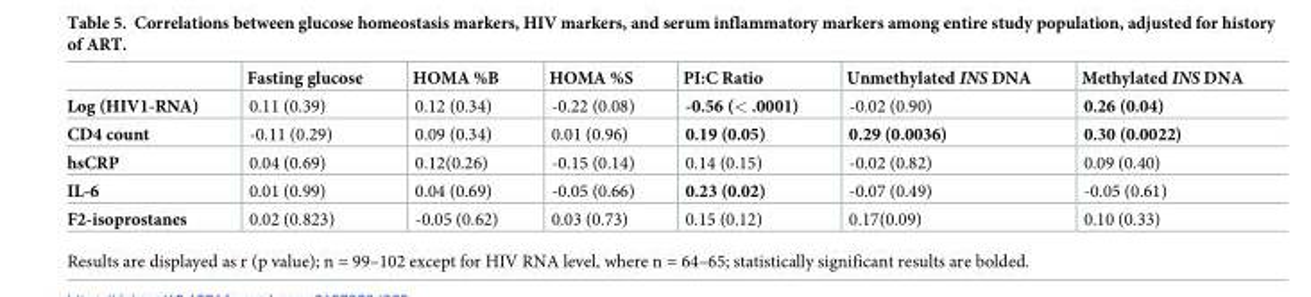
<table><thead><tr><td></td><td>Fasting glucose</td><td>HOMA %B</td><td>HOMA %S</td><td>PI:C Ratio</td><td>Unmethylated INS DNA</td><td>Methylated INS DNA</td></tr></thead><tbody><tr><td>Log (HIV1-RNA)</td><td>0.11 (0.39)</td><td>0.12 (0.34)</td><td>-0.22 (0.08)</td><td>-0.56 (&lt; .0001)</td><td>-0.02 (0.90)</td><td>0.26 (0.04)</td></tr><tr><td>CD4 count</td><td>-0.11 (0.29)</td><td>0.09 (0.34)</td><td>0.01 (0.96)</td><td>0.19 (0.05)</td><td>0.29 (0.0036)</td><td>0.30 (0.0022)</td></tr><tr><td>hsCRP</td><td>0.04 (0.69)</td><td>0.12(0.26)</td><td>-0.15 (0.14)</td><td>0.14 (0.15)</td><td>-0.02 (0.82)</td><td>0.09 (0.40)</td></tr><tr><td>IL-6</td><td>0.01 (0.99)</td><td>0.04 (0.69)</td><td>-0.05 (0.66)</td><td>0.23 (0.02)</td><td>-0.07 (0.49)</td><td>-0.05 (0.61)</td></tr><tr><td>F2-isoprostanes</td><td>0.02 (0.823)</td><td>-0.05 (0.62)</td><td>0.03 (0.73)</td><td>0.15 (0.12)</td><td>0.17(0.09)</td><td>0.10 (0.33)</td></tr></tbody></table>